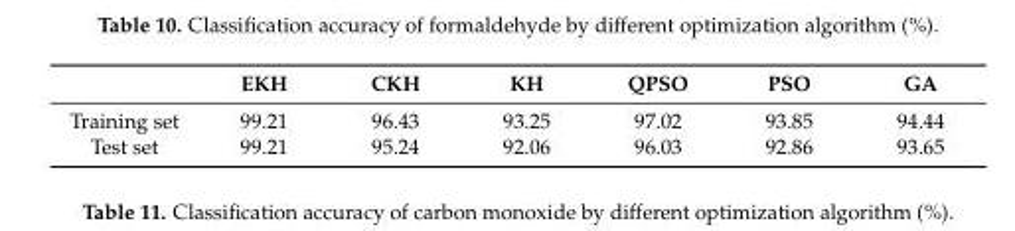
<table><thead><tr><td></td><td>EKH</td><td>CKH</td><td>KH</td><td>QPSO</td><td>PSO</td><td>GA</td></tr></thead><tbody><tr><td>Training set</td><td>99.21</td><td>96.43</td><td>93.25</td><td>97.02</td><td>93.85</td><td>94.44</td></tr><tr><td>Test set</td><td>99.21</td><td>95.24</td><td>92.06</td><td>96.03</td><td>92.86</td><td>93.65</td></tr></tbody></table>